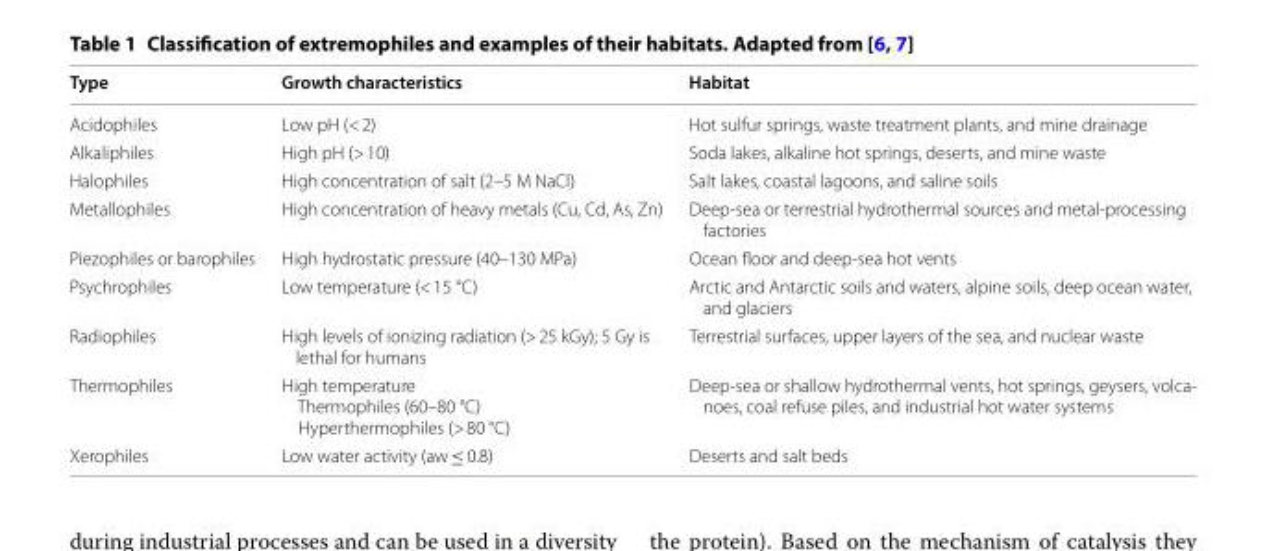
<table><thead><tr><td>Type</td><td>Growth characteristics</td><td>Habitat</td></tr></thead><tbody><tr><td>Acidophiles</td><td>Low pH (&lt; 2)</td><td>Hot sulfur springs, waste treatment plants, and mine drainage</td></tr><tr><td>Alkaliphiles</td><td>High pH (&gt; 10)</td><td>Soda lakes, alkaline hot springs, deserts, and mine waste</td></tr><tr><td>Halophiles</td><td>High concentration of salt (2–5 M NaCl)</td><td>Salt lakes, coastal lagoons, and saline soils</td></tr><tr><td>Metallophiles</td><td>High concentration of heavy metals (Cu, Cd, As, Zn)</td><td>Deep-sea or terrestrial hydrothermal sources and metal-processing factories</td></tr><tr><td>Piezophiles or barophiles</td><td>High hydrostatic pressure (40–130 MPa)</td><td>Ocean floor and deep-sea hot vents</td></tr><tr><td>Psychrophiles</td><td>Low temperature (&lt; 15 °C)</td><td>Arctic and Antarctic soils and waters, alpine soils, deep ocean water, and glaciers</td></tr><tr><td>Radiophiles</td><td>High levels of ionizing radiation (&gt; 25 kGy); 5 Gy is lethal for humans</td><td>Terrestrial surfaces, upper layers of the sea, and nuclear waste</td></tr><tr><td>Thermophiles</td><td>High temperature Thermophiles (60–80 °C) Hyperthermophiles (&gt; 80 °C)</td><td>Deep-sea or shallow hydrothermal vents, hot springs, geysers, volca- noes, coal refuse piles, and industrial hot water systems</td></tr><tr><td>Xerophiles</td><td>Low water activity (aw ≤ 0.8)</td><td>Deserts and salt beds</td></tr></tbody></table>